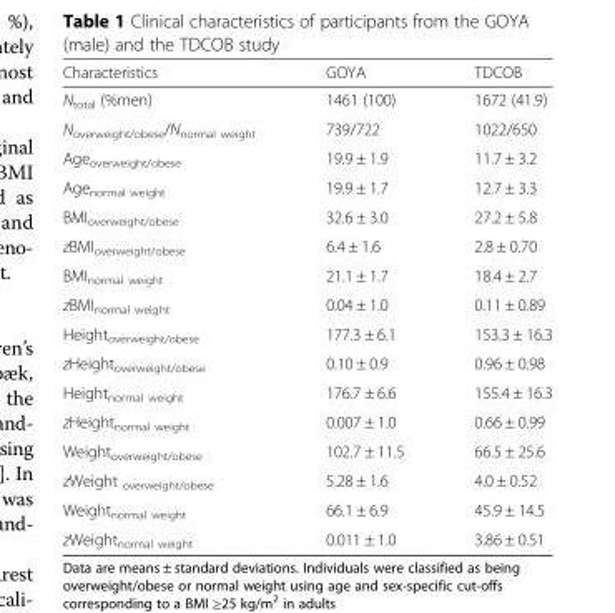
<table><thead><tr><td>Characteristics</td><td>GOYA</td><td>TDCOB</td></tr></thead><tbody><tr><td>N<sub>total</sub> (%men)</td><td>1461 (100)</td><td>1672 (41.9)</td></tr><tr><td>N<sub>overweight/obese</sub>/N<sub>normal weight</sub></td><td>739/722</td><td>1022/650</td></tr><tr><td>Age<sub>overweight/obese</sub></td><td>19.9 ± 1.9</td><td>11.7 ± 3.2</td></tr><tr><td>Age<sub>normal weight</sub></td><td>19.9 ± 1.7</td><td>12.7 ± 3.3</td></tr><tr><td>BMI<sub>overweight/obese</sub></td><td>32.6 ± 3.0</td><td>27.2 ± 5.8</td></tr><tr><td>zBMI<sub>overweight/obese</sub></td><td>6.4 ± 1.6</td><td>2.8 ± 0.70</td></tr><tr><td>BMI<sub>normal weight</sub></td><td>21.1 ± 1.7</td><td>18.4 ± 2.7</td></tr><tr><td>zBMI<sub>normal weight</sub></td><td>0.04 ± 1.0</td><td>0.11 ± 0.89</td></tr><tr><td>Height<sub>overweight/obese</sub></td><td>177.3 ± 6.1</td><td>153.3 ± 16.3</td></tr><tr><td>zHeight<sub>overweight/obese</sub></td><td>0.10 ± 0.9</td><td>0.96 ± 0.98</td></tr><tr><td>Height<sub>normal weight</sub></td><td>176.7 ± 6.6</td><td>155.4 ± 16.3</td></tr><tr><td>zHeight<sub>normal weight</sub></td><td>0.007 ± 1.0</td><td>0.66 ± 0.99</td></tr><tr><td>Weight<sub>overweight/obese</sub></td><td>102.7 ± 11.5</td><td>66.5 ± 25.6</td></tr><tr><td>zWeight <sub>overweight/obese</sub></td><td>5.28 ± 1.6</td><td>4.0 ± 0.52</td></tr><tr><td>Weight<sub>normal weight</sub></td><td>66.1 ± 6.9</td><td>45.9 ± 14.5</td></tr><tr><td>zWeight<sub>normal weight</sub></td><td>0.011 ± 1.0</td><td>3.86 ± 0.51</td></tr></tbody></table>